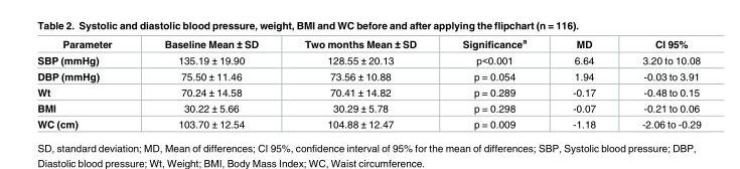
<table><thead><tr><td>Parameter</td><td>Baseline Mean ± SD</td><td>Two months Mean ± SD</td><td>Significance<sup>a</sup></td><td>MD</td><td>CI 95%</td></tr></thead><tbody><tr><td>SBP (mmHg)</td><td>135.19 ± 19.90</td><td>128.55 ± 20.13</td><td>p&lt;0.001</td><td>6.64</td><td>3.20 to 10.08</td></tr><tr><td>DBP (mmHg)</td><td>75.50 ± 11.46</td><td>73.56 ± 10.88</td><td>p = 0.054</td><td>1.94</td><td>-0.03 to 3.91</td></tr><tr><td>Wt</td><td>70.24 ± 14.58</td><td>70.41 ± 14.82</td><td>p = 0.289</td><td>-0.17</td><td>-0.48 to 0.15</td></tr><tr><td>BMI</td><td>30.22 ± 5.66</td><td>30.29 ± 5.78</td><td>p = 0.298</td><td>-0.07</td><td>-0.21 to 0.06</td></tr><tr><td>WC (cm)</td><td>103.70 ± 12.54</td><td>104.88 ± 12.47</td><td>p = 0.009</td><td>-1.18</td><td>-2.06 to -0.29</td></tr></tbody></table>